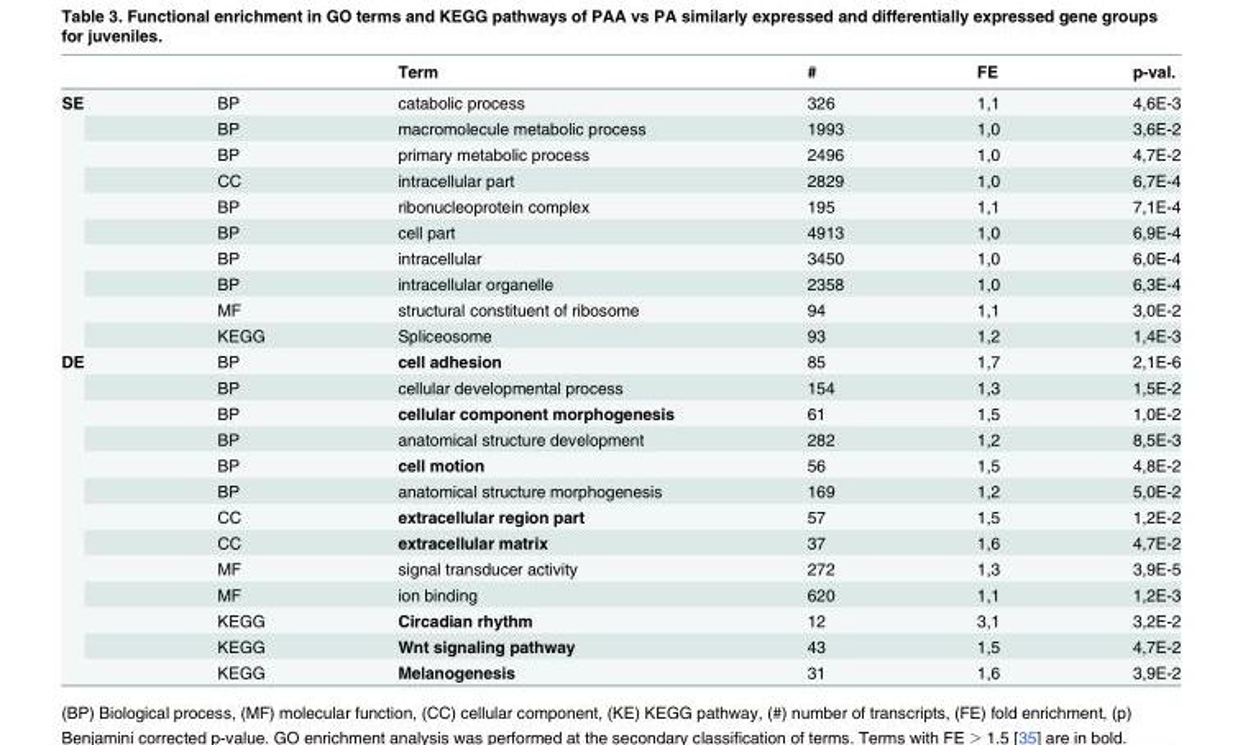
<table><thead><tr><td></td><td></td><td>Term</td><td>#</td><td>FE</td><td>p-val.</td></tr></thead><tbody><tr><td rowspan="10">SE</td><td>BP</td><td>catabolic process</td><td>326</td><td>1,1</td><td>4,6E-3</td></tr><tr><td>BP</td><td>macromolecule metabolic process</td><td>1993</td><td>1,0</td><td>3,6E-2</td></tr><tr><td>BP</td><td>primary metabolic process</td><td>2496</td><td>1,0</td><td>4,7E-2</td></tr><tr><td>CC</td><td>intracellular part</td><td>2829</td><td>1,0</td><td>6,7E-4</td></tr><tr><td>BP</td><td>ribonucleoprotein complex</td><td>195</td><td>1,1</td><td>7,1E-4</td></tr><tr><td>BP</td><td>cell part</td><td>4913</td><td>1,0</td><td>6,9E-4</td></tr><tr><td>BP</td><td>intracellular</td><td>3450</td><td>1,0</td><td>6,0E-4</td></tr><tr><td>BP</td><td>intracellular organelle</td><td>2358</td><td>1,0</td><td>6,3E-4</td></tr><tr><td>MF</td><td>structural constituent of ribosome</td><td>94</td><td>1,1</td><td>3,0E-2</td></tr><tr><td>KEGG</td><td>Spliceosome</td><td>93</td><td>1,2</td><td>1,4E-3</td></tr><tr><td rowspan="13">DE</td><td>BP</td><td>cell adhesion</td><td>85</td><td>1,7</td><td>2,1E-6</td></tr><tr><td>BP</td><td>cellular developmental process</td><td>154</td><td>1,3</td><td>1,5E-2</td></tr><tr><td>BP</td><td>cellular component morphogenesis</td><td>61</td><td>1,5</td><td>1,0E-2</td></tr><tr><td>BP</td><td>anatomical structure development</td><td>282</td><td>1,2</td><td>8,5E-3</td></tr><tr><td>BP</td><td>cell motion</td><td>56</td><td>1,5</td><td>4,8E-2</td></tr><tr><td>BP</td><td>anatomical structure morphogenesis</td><td>169</td><td>1,2</td><td>5,0E-2</td></tr><tr><td>CC</td><td>extracellular region part</td><td>57</td><td>1,5</td><td>1,2E-2</td></tr><tr><td>CC</td><td>extracellular matrix</td><td>37</td><td>1,6</td><td>4,7E-2</td></tr><tr><td>MF</td><td>signal transducer activity</td><td>272</td><td>1,3</td><td>3,9E-5</td></tr><tr><td>MF</td><td>ion binding</td><td>620</td><td>1,1</td><td>1,2E-3</td></tr><tr><td>KEGG</td><td>Circadian rhythm</td><td>12</td><td>3,1</td><td>3,2E-2</td></tr><tr><td>KEGG</td><td>Wnt signaling pathway</td><td>43</td><td>1,5</td><td>4,7E-2</td></tr><tr><td>KEGG</td><td>Melanogenesis</td><td>31</td><td>1,6</td><td>3,9E-2</td></tr></tbody></table>